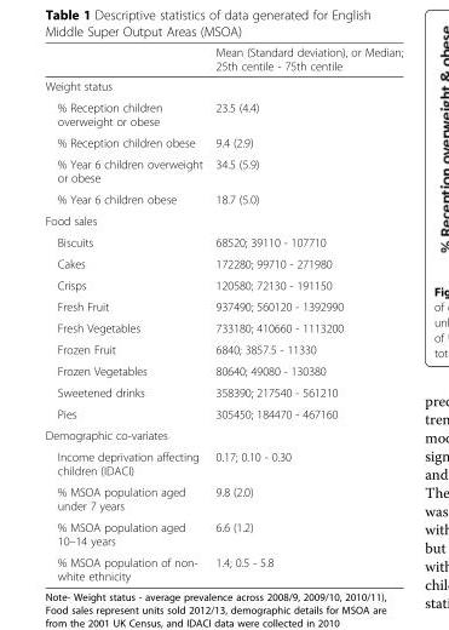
<table><thead><tr><td></td><td>Mean (Standard deviation), or Median; 25th centile - 75th centile</td></tr></thead><tbody><tr><td colspan="2">Weight status</td></tr><tr><td>% Reception children overweight or obese</td><td>23.5 (4.4)</td></tr><tr><td>% Reception children obese</td><td>9.4 (2.9)</td></tr><tr><td>% Year 6 children overweight or obese</td><td>34.5 (5.9)</td></tr><tr><td>% Year 6 children obese</td><td>18.7 (5.0)</td></tr><tr><td colspan="2">Food sales</td></tr><tr><td>Biscuits</td><td>68520; 39110 - 107710</td></tr><tr><td>Cakes</td><td>172280; 99710 - 271980</td></tr><tr><td>Crisps</td><td>120580; 72130 - 191150</td></tr><tr><td>Fresh Fruit</td><td>937490; 560120 - 1392990</td></tr><tr><td>Fresh Vegetables</td><td>733180; 410660 - 1113200</td></tr><tr><td>Frozen Fruit</td><td>6840; 3857.5 - 11330</td></tr><tr><td>Frozen Vegetables</td><td>80640; 49080 - 130380</td></tr><tr><td>Sweetened drinks</td><td>358390; 217540 - 561210</td></tr><tr><td>Pies</td><td>305450; 184470 - 467160</td></tr><tr><td colspan="2">Demographic co-variates</td></tr><tr><td>Income deprivation affecting children (IDACI)</td><td>0.17; 0.10 - 0.30</td></tr><tr><td>% MSOA population aged under 7 years</td><td>9.8 (2.0)</td></tr><tr><td>% MSOA population aged 10–14 years</td><td>6.6 (1.2)</td></tr><tr><td>% MSOA population of non- white ethnicity</td><td>1.4; 0.5 - 5.8</td></tr></tbody></table>